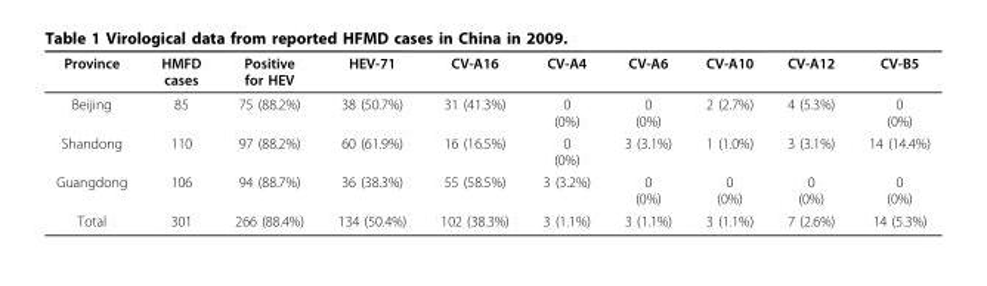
<table><thead><tr><td>Province</td><td>HMFD cases</td><td>Positive for HEV</td><td>HEV-71</td><td>CV-A16</td><td>CV-A4</td><td>CV-A6</td><td>CV-A10</td><td>CV-A12</td><td>CV-B5</td></tr></thead><tbody><tr><td>Beijing</td><td>85</td><td>75 (88.2%)</td><td>38 (50.7%)</td><td>31 (41.3%)</td><td>0 (0%)</td><td>0 (0%)</td><td>2 (2.7%)</td><td>4 (5.3%)</td><td>0 (0%)</td></tr><tr><td>Shandong</td><td>110</td><td>97 (88.2%)</td><td>60 (61.9%)</td><td>16 (16.5%)</td><td>0 (0%)</td><td>3 (3.1%)</td><td>1 (1.0%)</td><td>3 (3.1%)</td><td>14 (14.4%)</td></tr><tr><td>Guangdong</td><td>106</td><td>94 (88.7%)</td><td>36 (38.3%)</td><td>55 (58.5%)</td><td>3 (3.2%)</td><td>0 (0%)</td><td>0 (0%)</td><td>0 (0%)</td><td>0 (0%)</td></tr><tr><td>Total</td><td>301</td><td>266 (88.4%)</td><td>134 (50.4%)</td><td>102 (38.3%)</td><td>3 (1.1%)</td><td>3 (1.1%)</td><td>3 (1.1%)</td><td>7 (2.6%)</td><td>14 (5.3%)</td></tr></tbody></table>